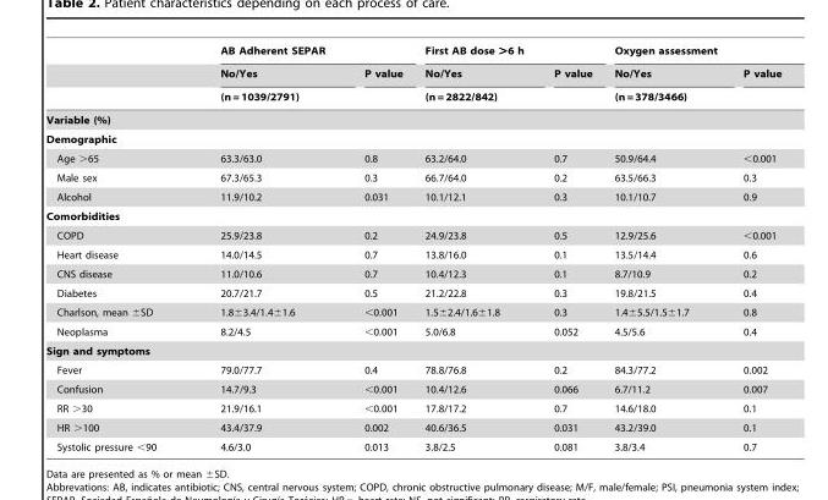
<table><thead><tr><td rowspan="3"></td><td colspan="2">AB Adherent SEPAR</td><td colspan="2">First AB dose &gt;6 h</td><td colspan="2">Oxygen assessment</td></tr><tr><td>No/Yes</td><td>P value</td><td>No/Yes</td><td>P value</td><td>No/Yes</td><td>P value</td></tr><tr><td colspan="2">(n = 1039/2791)</td><td colspan="2">(n = 2822/842)</td><td colspan="2">(n = 378/3466)</td></tr></thead><tbody><tr><td colspan="7">Variable (%)</td></tr><tr><td colspan="7">Demographic</td></tr><tr><td>Age &gt;65</td><td>63.3/63.0</td><td>0.8</td><td>63.2/64.0</td><td>0.7</td><td>50.9/64.4</td><td>&lt;0.001</td></tr><tr><td>Male sex</td><td>67.3/65.3</td><td>0.3</td><td>66.7/64.0</td><td>0.2</td><td>63.5/66.3</td><td>0.3</td></tr><tr><td>Alcohol</td><td>11.9/10.2</td><td>0.031</td><td>10.1/12.1</td><td>0.3</td><td>10.1/10.7</td><td>0.9</td></tr><tr><td colspan="7">Comorbidities</td></tr><tr><td>COPD</td><td>25.9/23.8</td><td>0.2</td><td>24.9/23.8</td><td>0.5</td><td>12.9/25.6</td><td>&lt;0.001</td></tr><tr><td>Heart disease</td><td>14.0/14.5</td><td>0.7</td><td>13.8/16.0</td><td>0.1</td><td>13.5/14.4</td><td>0.6</td></tr><tr><td>CNS disease</td><td>11.0/10.6</td><td>0.7</td><td>10.4/12.3</td><td>0.1</td><td>8.7/10.9</td><td>0.2</td></tr><tr><td>Diabetes</td><td>20.7/21.7</td><td>0.5</td><td>21.2/22.8</td><td>0.3</td><td>19.8/21.5</td><td>0.4</td></tr><tr><td>Charlson, mean ±SD</td><td>1.8±3.4/1.4±1.6</td><td>&lt;0.001</td><td>1.5±2.4/1.6±1.8</td><td>0.3</td><td>1.4±5.5/1.5±1.7</td><td>0.8</td></tr><tr><td>Neoplasma</td><td>8.2/4.5</td><td>&lt;0.001</td><td>5.0/6.8</td><td>0.052</td><td>4.5/5.6</td><td>0.4</td></tr><tr><td colspan="7">Sign and symptoms</td></tr><tr><td>Fever</td><td>79.0/77.7</td><td>0.4</td><td>78.8/76.8</td><td>0.2</td><td>84.3/77.2</td><td>0.002</td></tr><tr><td>Confusion</td><td>14.7/9.3</td><td>&lt;0.001</td><td>10.4/12.6</td><td>0.066</td><td>6.7/11.2</td><td>0.007</td></tr><tr><td>RR &gt;30</td><td>21.9/16.1</td><td>&lt;0.001</td><td>17.8/17.2</td><td>0.7</td><td>14.6/18.0</td><td>0.1</td></tr><tr><td>HR &gt;100</td><td>43.4/37.9</td><td>0.002</td><td>40.6/36.5</td><td>0.031</td><td>43.2/39.0</td><td>0.1</td></tr><tr><td>Systolic pressure &lt;90</td><td>4.6/3.0</td><td>0.013</td><td>3.8/2.5</td><td>0.081</td><td>3.8/3.4</td><td>0.7</td></tr></tbody></table>